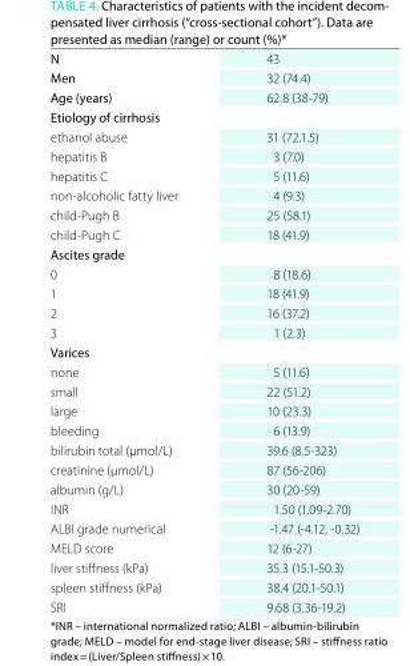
<table><tbody><tr><td>n</td><td>43</td></tr><tr><td>Men</td><td>32 (74.4)</td></tr><tr><td>age (years)</td><td>62.8 (38-79)</td></tr><tr><td colspan="2">etiology of cirrhosis</td></tr><tr><td>ethanol abuse</td><td>31 (72.1.5)</td></tr><tr><td>hepatitis B</td><td>3 (7.0)</td></tr><tr><td>hepatitis C</td><td>5 (11.6)</td></tr><tr><td>non-alcoholic fatty liver</td><td>4 (9.3)</td></tr><tr><td>child-Pugh B</td><td>25 (58.1)</td></tr><tr><td>child-Pugh C</td><td>18 (41.9)</td></tr><tr><td colspan="2">ascites grade</td></tr><tr><td>0</td><td>8 (18.6)</td></tr><tr><td>1</td><td>18 (41.9)</td></tr><tr><td>2</td><td>16 (37.2)</td></tr><tr><td>3</td><td>1 (2.3)</td></tr><tr><td colspan="2">Varices</td></tr><tr><td>none</td><td>5 (11.6)</td></tr><tr><td>small</td><td>22 (51.2)</td></tr><tr><td>large</td><td>10 (23.3)</td></tr><tr><td>bleeding</td><td>6 (13.9)</td></tr><tr><td>bilirubin total (μmol/L)</td><td>39.6 (8.5-323)</td></tr><tr><td>creatinine (μmol/L)</td><td>87 (56-206)</td></tr><tr><td>albumin (g/L)</td><td>30 (20-59)</td></tr><tr><td>INR</td><td>1.50 (1.09-2.70)</td></tr><tr><td>ALBI grade numerical</td><td>-1.47 (-4.12, -0.32)</td></tr><tr><td>MELD score</td><td>12 (6-27)</td></tr><tr><td>liver stiffness (kPa)</td><td>35.3 (15.1-50.3)</td></tr><tr><td>spleen stiffness (kPa)</td><td>38.4 (20.1-50.1)</td></tr><tr><td>SRI</td><td>9.68 (3.36-19.2)</td></tr></tbody></table>